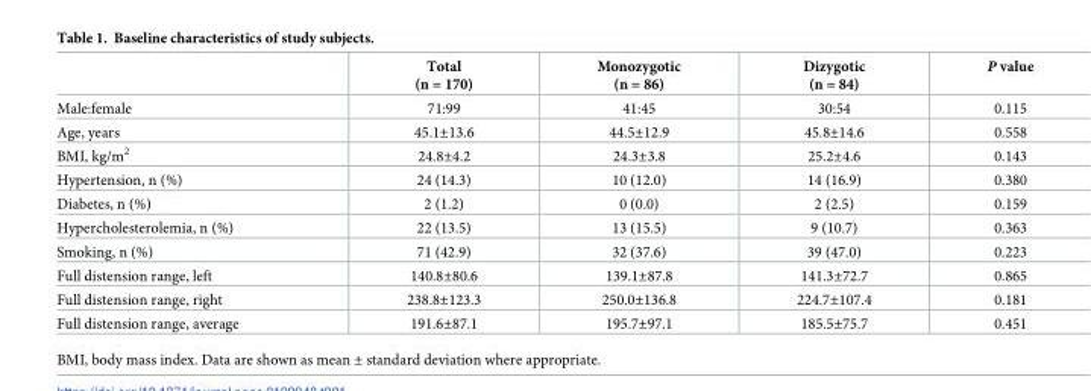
<table><thead><tr><td></td><td>Total (n = 170)</td><td>Monozygotic (n = 86)</td><td>Dizygotic (n = 84)</td><td>P value</td></tr></thead><tbody><tr><td>Male:female</td><td>71:99</td><td>41:45</td><td>30:54</td><td>0.115</td></tr><tr><td>Age, years</td><td>45.1±13.6</td><td>44.5±12.9</td><td>45.8±14.6</td><td>0.558</td></tr><tr><td>BMI, kg/m<sup>2</sup></td><td>24.8±4.2</td><td>24.3±3.8</td><td>25.2±4.6</td><td>0.143</td></tr><tr><td>Hypertension, n (%)</td><td>24 (14.3)</td><td>10 (12.0)</td><td>14 (16.9)</td><td>0.380</td></tr><tr><td>Diabetes, n (%)</td><td>2 (1.2)</td><td>0 (0.0)</td><td>2 (2.5)</td><td>0.159</td></tr><tr><td>Hypercholesterolemia, n (%)</td><td>22 (13.5)</td><td>13 (15.5)</td><td>9 (10.7)</td><td>0.363</td></tr><tr><td>Smoking, n (%)</td><td>71 (42.9)</td><td>32 (37.6)</td><td>39 (47.0)</td><td>0.223</td></tr><tr><td>Full distension range, left</td><td>140.8±80.6</td><td>139.1±87.8</td><td>141.3±72.7</td><td>0.865</td></tr><tr><td>Full distension range, right</td><td>238.8±123.3</td><td>250.0±136.8</td><td>224.7±107.4</td><td>0.181</td></tr><tr><td>Full distension range, average</td><td>191.6±87.1</td><td>195.7±97.1</td><td>185.5±75.7</td><td>0.451</td></tr></tbody></table>